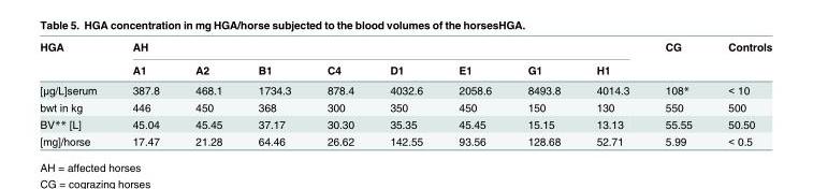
<table><thead><tr><td rowspan="2">HGA</td><td colspan="8">AH</td><td rowspan="2">CG</td><td rowspan="2">Controls</td></tr><tr><td>A1</td><td>A2</td><td>B1</td><td>C4</td><td>D1</td><td>E1</td><td>G1</td><td>H1</td></tr></thead><tbody><tr><td>[μg/L]serum</td><td>387.8</td><td>468.1</td><td>1734.3</td><td>878.4</td><td>4032.6</td><td>2058.6</td><td>8493.8</td><td>4014.3</td><td>108*</td><td>&lt; 10</td></tr><tr><td>bwt in kg</td><td>446</td><td>450</td><td>368</td><td>300</td><td>350</td><td>450</td><td>150</td><td>130</td><td>550</td><td>500</td></tr><tr><td>BV** [L]</td><td>45.04</td><td>45.45</td><td>37.17</td><td>30.30</td><td>35.35</td><td>45.45</td><td>15.15</td><td>13.13</td><td>55.55</td><td>50.50</td></tr><tr><td>[mg]/horse</td><td>17.47</td><td>21.28</td><td>64.46</td><td>26.62</td><td>142.55</td><td>93.56</td><td>128.68</td><td>52.71</td><td>5.99</td><td>&lt; 0.5</td></tr></tbody></table>